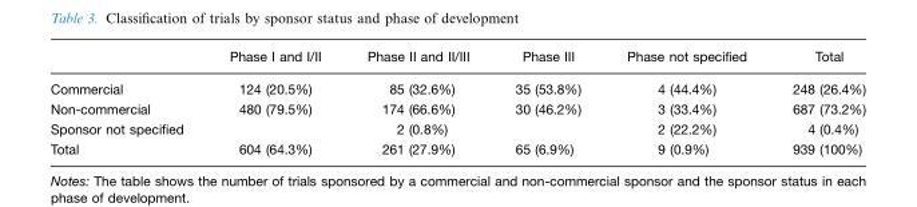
<table><thead><tr><td></td><td>Phase I and I/II</td><td>Phase II and II/III</td><td>Phase III</td><td>Phase not specified</td><td>Total</td></tr></thead><tbody><tr><td>Commercial</td><td>124 (20.5%)</td><td>85 (32.6%)</td><td>35 (53.8%)</td><td>4 (44.4%)</td><td>248 (26.4%)</td></tr><tr><td>Non-commercial</td><td>480 (79.5%)</td><td>174 (66.6%)</td><td>30 (46.2%)</td><td>3 (33.4%)</td><td>687 (73.2%)</td></tr><tr><td>Sponsor not specified</td><td></td><td>2 (0.8%)</td><td></td><td>2 (22.2%)</td><td>4 (0.4%)</td></tr><tr><td>Total</td><td>604 (64.3%)</td><td>261 (27.9%)</td><td>65 (6.9%)</td><td>9 (0.9%)</td><td>939 (100%)</td></tr></tbody></table>